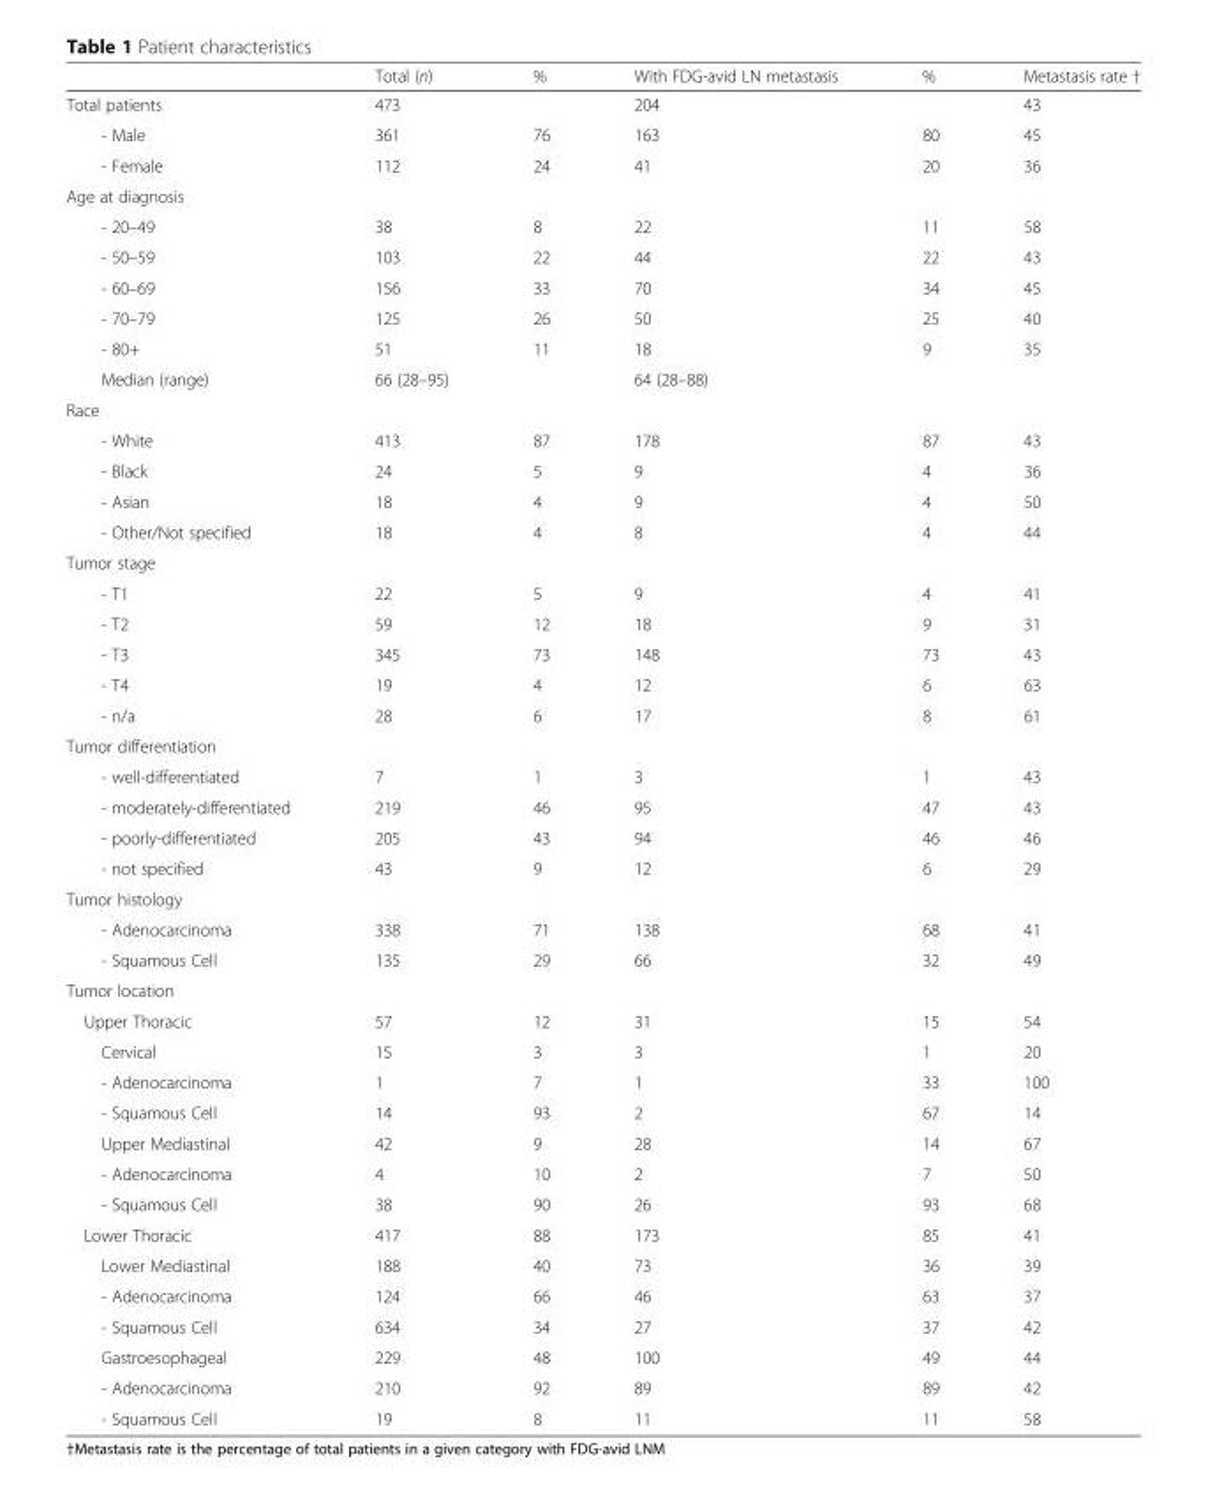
<table><thead><tr><td></td><td>Total (n)</td><td>%</td><td>With FDG-avid LN metastasis</td><td>%</td><td>Metastasis rate †</td></tr></thead><tbody><tr><td>Total patients</td><td>473</td><td></td><td>204</td><td></td><td>43</td></tr><tr><td>- Male</td><td>361</td><td>76</td><td>163</td><td>80</td><td>45</td></tr><tr><td>- Female</td><td>112</td><td>24</td><td>41</td><td>20</td><td>36</td></tr><tr><td colspan="6">Age at diagnosis</td></tr><tr><td>- 20–49</td><td>38</td><td>8</td><td>22</td><td>11</td><td>58</td></tr><tr><td>- 50–59</td><td>103</td><td>22</td><td>44</td><td>22</td><td>43</td></tr><tr><td>- 60–69</td><td>156</td><td>33</td><td>70</td><td>34</td><td>45</td></tr><tr><td>- 70–79</td><td>125</td><td>26</td><td>50</td><td>25</td><td>40</td></tr><tr><td>- 80+</td><td>51</td><td>11</td><td>18</td><td>9</td><td>35</td></tr><tr><td>Median (range)</td><td>66 (28–95)</td><td></td><td>64 (28–88)</td><td></td><td></td></tr><tr><td colspan="6">Race</td></tr><tr><td>- White</td><td>413</td><td>87</td><td>178</td><td>87</td><td>43</td></tr><tr><td>- Black</td><td>24</td><td>5</td><td>9</td><td>4</td><td>36</td></tr><tr><td>- Asian</td><td>18</td><td>4</td><td>9</td><td>4</td><td>50</td></tr><tr><td>- Other/Not specified</td><td>18</td><td>4</td><td>8</td><td>4</td><td>44</td></tr><tr><td colspan="6">Tumor stage</td></tr><tr><td>- T1</td><td>22</td><td>5</td><td>9</td><td>4</td><td>41</td></tr><tr><td>- T2</td><td>59</td><td>12</td><td>18</td><td>9</td><td>31</td></tr><tr><td>- T3</td><td>345</td><td>73</td><td>148</td><td>73</td><td>43</td></tr><tr><td>- T4</td><td>19</td><td>4</td><td>12</td><td>6</td><td>63</td></tr><tr><td>- n/a</td><td>28</td><td>6</td><td>17</td><td>8</td><td>61</td></tr><tr><td colspan="6">Tumor differentiation</td></tr><tr><td>- well-differentiated</td><td>7</td><td>1</td><td>3</td><td>1</td><td>43</td></tr><tr><td>- moderately-differentiated</td><td>219</td><td>46</td><td>95</td><td>47</td><td>43</td></tr><tr><td>- poorly-differentiated</td><td>205</td><td>43</td><td>94</td><td>46</td><td>46</td></tr><tr><td>- not specified</td><td>43</td><td>9</td><td>12</td><td>6</td><td>29</td></tr><tr><td colspan="6">Tumor histology</td></tr><tr><td>- Adenocarcinoma</td><td>338</td><td>71</td><td>138</td><td>68</td><td>41</td></tr><tr><td>- Squamous Cell</td><td>135</td><td>29</td><td>66</td><td>32</td><td>49</td></tr><tr><td colspan="6">Tumor location</td></tr><tr><td>Upper Thoracic</td><td>57</td><td>12</td><td>31</td><td>15</td><td>54</td></tr><tr><td>Cervical</td><td>15</td><td>3</td><td>3</td><td>1</td><td>20</td></tr><tr><td>- Adenocarcinoma</td><td>1</td><td>7</td><td>1</td><td>33</td><td>100</td></tr><tr><td>- Squamous Cell</td><td>14</td><td>93</td><td>2</td><td>67</td><td>14</td></tr><tr><td>Upper Mediastinal</td><td>42</td><td>9</td><td>28</td><td>14</td><td>67</td></tr><tr><td>- Adenocarcinoma</td><td>4</td><td>10</td><td>2</td><td>7</td><td>50</td></tr><tr><td>- Squamous Cell</td><td>38</td><td>90</td><td>26</td><td>93</td><td>68</td></tr><tr><td>Lower Thoracic</td><td>417</td><td>88</td><td>173</td><td>85</td><td>41</td></tr><tr><td>Lower Mediastinal</td><td>188</td><td>40</td><td>73</td><td>36</td><td>39</td></tr><tr><td>- Adenocarcinoma</td><td>124</td><td>66</td><td>46</td><td>63</td><td>37</td></tr><tr><td>- Squamous Cell</td><td>634</td><td>34</td><td>27</td><td>37</td><td>42</td></tr><tr><td>Gastroesophageal</td><td>229</td><td>48</td><td>100</td><td>49</td><td>44</td></tr><tr><td>- Adenocarcinoma</td><td>210</td><td>92</td><td>89</td><td>89</td><td>42</td></tr><tr><td>- Squamous Cell</td><td>19</td><td>8</td><td>11</td><td>11</td><td>58</td></tr></tbody></table>